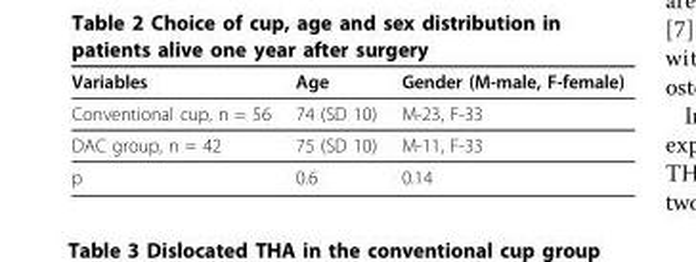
<table><thead><tr><td>Variables</td><td>Age</td><td>Gender (M-male, F-female)</td></tr></thead><tbody><tr><td>Conventional cup, n = 56</td><td>74 (SD 10)</td><td>M-23, F-33</td></tr><tr><td>DAC group, n = 42</td><td>75 (SD 10)</td><td>M-11, F-33</td></tr><tr><td>p</td><td>0.6</td><td>0.14</td></tr></tbody></table>